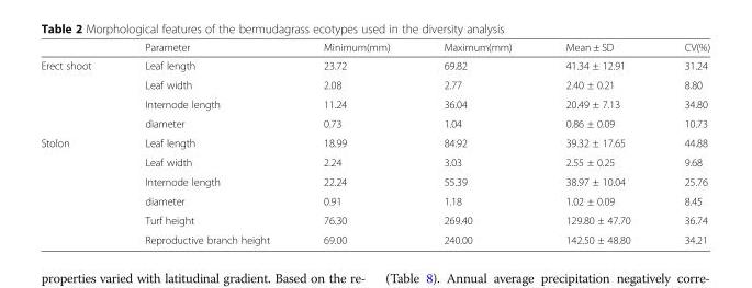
<table><thead><tr><td></td><td>Parameter</td><td>Minimum(mm)</td><td>Maximum(mm)</td><td>Mean ± SD</td><td>CV(%)</td></tr></thead><tbody><tr><td rowspan="4">Erect shoot</td><td>Leaf length</td><td>23.72</td><td>69.82</td><td>41.34 ± 12.91</td><td>31.24</td></tr><tr><td>Leaf width</td><td>2.08</td><td>2.77</td><td>2.40 ± 0.21</td><td>8.80</td></tr><tr><td>Internode length</td><td>11.24</td><td>36.04</td><td>20.49 ± 7.13</td><td>34.80</td></tr><tr><td>diameter</td><td>0.73</td><td>1.04</td><td>0.86 ± 0.09</td><td>10.73</td></tr><tr><td rowspan="6">Stolon</td><td>Leaf length</td><td>18.99</td><td>84.92</td><td>39.32 ± 17.65</td><td>44.88</td></tr><tr><td>Leaf width</td><td>2.24</td><td>3.03</td><td>2.55 ± 0.25</td><td>9.68</td></tr><tr><td>Internode length</td><td>22.24</td><td>55.39</td><td>38.97 ± 10.04</td><td>25.76</td></tr><tr><td>diameter</td><td>0.91</td><td>1.18</td><td>1.02 ± 0.09</td><td>8.45</td></tr><tr><td>Turf height</td><td>76.30</td><td>269.40</td><td>129.80 ± 47.70</td><td>36.74</td></tr><tr><td>Reproductive branch height</td><td>69.00</td><td>240.00</td><td>142.50 ± 48.80</td><td>34.21</td></tr></tbody></table>